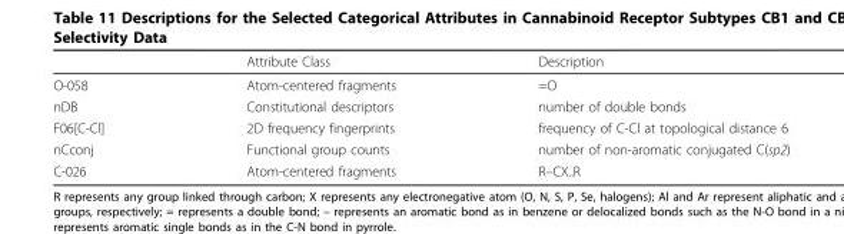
<table><thead><tr><td></td><td>Attribute Class</td><td>Description</td></tr></thead><tbody><tr><td>O-058</td><td>Atom-centered fragments</td><td>=O</td></tr><tr><td>nDB</td><td>Constitutional descriptors</td><td>number of double bonds</td></tr><tr><td>F06[C-Cl]</td><td>2D frequency fingerprints</td><td>frequency of C-Cl at topological distance 6</td></tr><tr><td>nCconj</td><td>Functional group counts</td><td>number of non-aromatic conjugated C(sp2)</td></tr><tr><td>C-026</td><td>Atom-centered fragments</td><td>R–CX..R</td></tr></tbody></table>